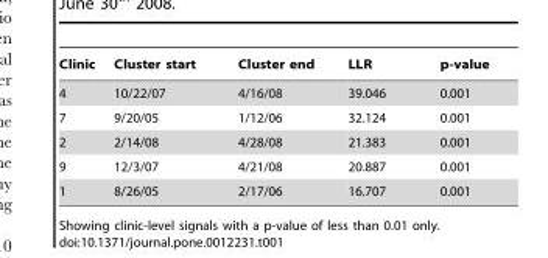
<table><thead><tr><td>Clinic</td><td>Cluster start</td><td>Cluster end</td><td>LLR</td><td>p-value</td></tr></thead><tbody><tr><td>4</td><td>10/22/07</td><td>4/16/08</td><td>39.046</td><td>0.001</td></tr><tr><td>7</td><td>9/20/05</td><td>1/12/06</td><td>32.124</td><td>0.001</td></tr><tr><td>2</td><td>2/14/08</td><td>4/28/08</td><td>21.383</td><td>0.001</td></tr><tr><td>9</td><td>12/3/07</td><td>4/21/08</td><td>20.887</td><td>0.001</td></tr><tr><td>1</td><td>8/26/05</td><td>2/17/06</td><td>16.707</td><td>0.001</td></tr></tbody></table>